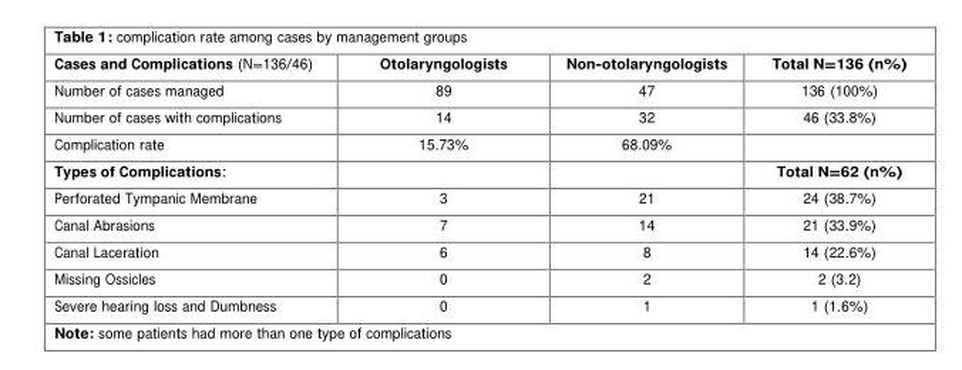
<table><thead><tr><td>Cases and Complications (N=136/46)</td><td>Otolaryngologists</td><td>Non-otolaryngologists</td><td>Total N=136 (n%)</td></tr></thead><tbody><tr><td>Number of cases managed</td><td>89</td><td>47</td><td>136 (100%)</td></tr><tr><td>Number of cases with complications</td><td>14</td><td>32</td><td>46 (33.8%)</td></tr><tr><td>Complication rate</td><td>15.73%</td><td>68.09%</td><td></td></tr><tr><td>Types of Complications:</td><td></td><td></td><td>Total N=62 (n%)</td></tr><tr><td>Perforated Tympanic Membrane</td><td>3</td><td>21</td><td>24 (38.7%)</td></tr><tr><td>Canal Abrasions</td><td>7</td><td>14</td><td>21 (33.9%)</td></tr><tr><td>Canal Laceration</td><td>6</td><td>8</td><td>14 (22.6%)</td></tr><tr><td>Missing Ossicles</td><td>0</td><td>2</td><td>2 (3.2)</td></tr><tr><td>Severe hearing loss and Dumbness</td><td>0</td><td>1</td><td>1 (1.6%)</td></tr></tbody></table>